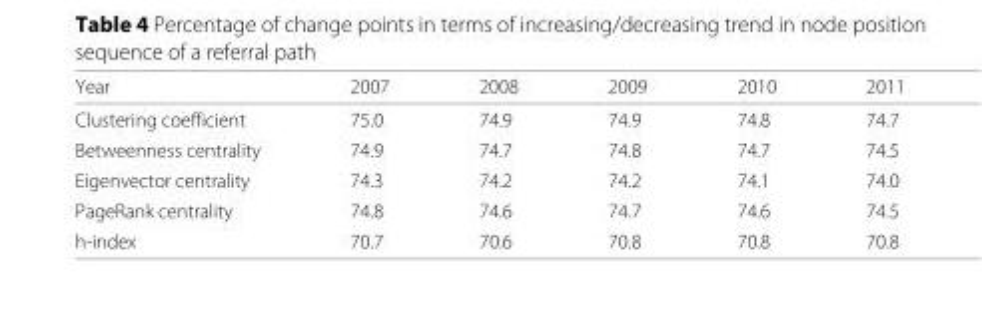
<table><thead><tr><td>Year</td><td>2007</td><td>2008</td><td>2009</td><td>2010</td><td>2011</td></tr></thead><tbody><tr><td>Clustering coefficient</td><td>75.0</td><td>74.9</td><td>74.9</td><td>74.8</td><td>74.7</td></tr><tr><td>Betweenness centrality</td><td>74.9</td><td>74.7</td><td>74.8</td><td>74.7</td><td>74.5</td></tr><tr><td>Eigenvector centrality</td><td>74.3</td><td>74.2</td><td>74.2</td><td>74.1</td><td>74.0</td></tr><tr><td>PageRank centrality</td><td>74.8</td><td>74.6</td><td>74.7</td><td>74.6</td><td>74.5</td></tr><tr><td>h-index</td><td>70.7</td><td>70.6</td><td>70.8</td><td>70.8</td><td>70.8</td></tr></tbody></table>